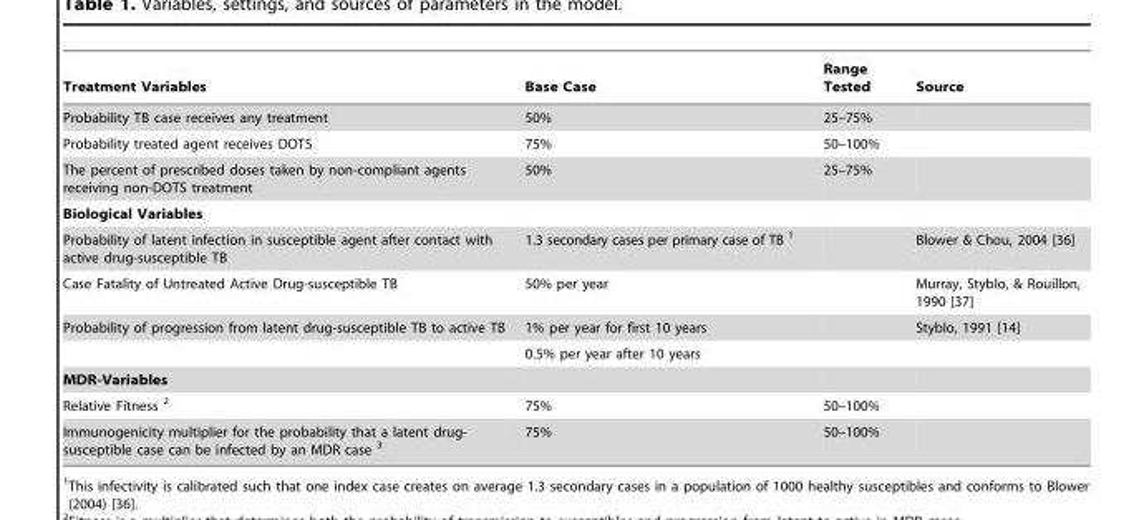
<table><thead><tr><td>Treatment Variables</td><td>Base Case</td><td>Range Tested</td><td>Source</td></tr></thead><tbody><tr><td>Probability TB case receives any treatment</td><td>50%</td><td>25–75%</td><td></td></tr><tr><td>Probability treated agent receives DOTS</td><td>75%</td><td>50–100%</td><td></td></tr><tr><td>The percent of prescribed doses taken by non-compliant agents receiving non-DOTS treatment</td><td>50%</td><td>25–75%</td><td></td></tr><tr><td colspan="4">Biological Variables</td></tr><tr><td>Probability of latent infection in susceptible agent after contact with active drug-susceptible TB</td><td>1.3 secondary cases per primary case of TB 1</td><td></td><td>Blower &amp; Chou, 2004 [36]</td></tr><tr><td>Case Fatality of Untreated Active Drug-susceptible TB</td><td>50% per year</td><td></td><td>Murray, Styblo, &amp; Rouillon, 1990 [37]</td></tr><tr><td rowspan="2">Probability of progression from latent drug-susceptible TB to active TB</td><td>1% per year for first 10 years</td><td></td><td>Styblo, 1991 [14]</td></tr><tr><td>0.5% per year after 10 years</td><td></td><td></td></tr><tr><td colspan="4">MDR-Variables</td></tr><tr><td>Relative Fitness 2</td><td>75%</td><td>50–100%</td><td></td></tr><tr><td>Immunogenicity multiplier for the probability that a latent drug- susceptible case can be infected by an MDR case 3</td><td>75%</td><td>50–100%</td><td></td></tr></tbody></table>